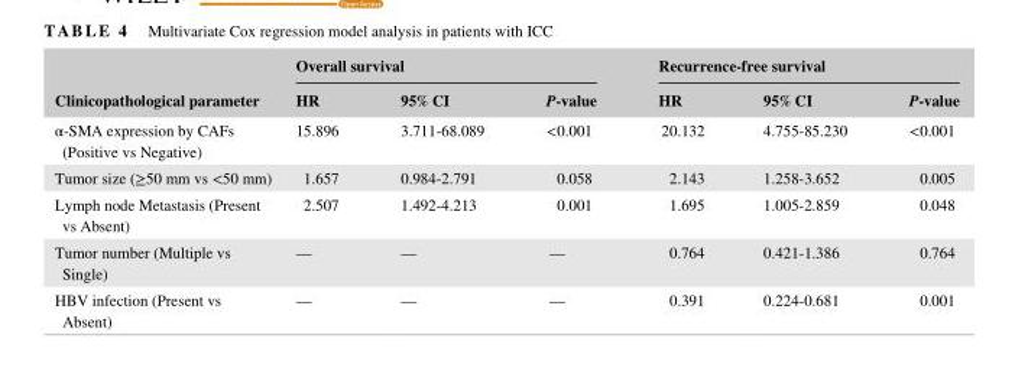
<table><thead><tr><td rowspan="2">Clinicopathological parameter</td><td colspan="3">Overall survival</td><td colspan="3">Recurrence- free survival</td></tr><tr><td>HR</td><td>95% CI</td><td>P- value</td><td>HR</td><td>95% CI</td><td>P- value</td></tr></thead><tbody><tr><td>α- SMA expression by CAFs (Positive vs Negative)</td><td>15.896</td><td>3.711- 68.089</td><td>&lt;0.001</td><td>20.132</td><td>4.755- 85.230</td><td>&lt;0.001</td></tr><tr><td>Tumor size (≥50 mm vs &lt;50 mm)</td><td>1.657</td><td>0.984- 2.791</td><td>0.058</td><td>2.143</td><td>1.258- 3.652</td><td>0.005</td></tr><tr><td>Lymph node Metastasis (Present vs Absent)</td><td>2.507</td><td>1.492- 4.213</td><td>0.001</td><td>1.695</td><td>1.005- 2.859</td><td>0.048</td></tr><tr><td>Tumor number (Multiple vs Single)</td><td>—</td><td>—</td><td>—</td><td>0.764</td><td>0.421- 1.386</td><td>0.764</td></tr><tr><td>HBV infection (Present vs Absent)</td><td>—</td><td>—</td><td>—</td><td>0.391</td><td>0.224- 0.681</td><td>0.001</td></tr></tbody></table>